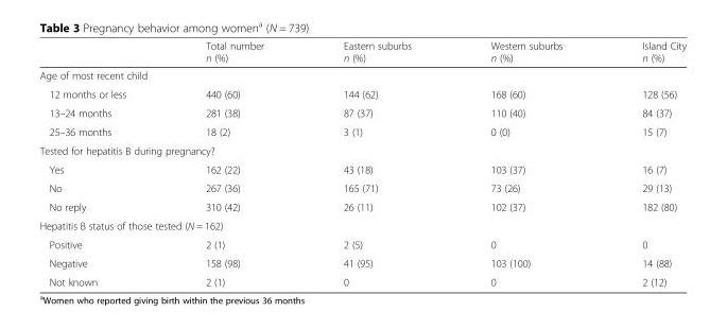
<table><thead><tr><td></td><td>Total number n (%)</td><td>Eastern suburbs n (%)</td><td>Western suburbs n (%)</td><td>Island City n (%)</td></tr></thead><tbody><tr><td colspan="5">Age of most recent child</td></tr><tr><td>12 months or less</td><td>440 (60)</td><td>144 (62)</td><td>168 (60)</td><td>128 (56)</td></tr><tr><td>13–24 months</td><td>281 (38)</td><td>87 (37)</td><td>110 (40)</td><td>84 (37)</td></tr><tr><td>25–36 months</td><td>18 (2)</td><td>3 (1)</td><td>0 (0)</td><td>15 (7)</td></tr><tr><td colspan="5">Tested for hepatitis B during pregnancy?</td></tr><tr><td>Yes</td><td>162 (22)</td><td>43 (18)</td><td>103 (37)</td><td>16 (7)</td></tr><tr><td>No</td><td>267 (36)</td><td>165 (71)</td><td>73 (26)</td><td>29 (13)</td></tr><tr><td>No reply</td><td>310 (42)</td><td>26 (11)</td><td>102 (37)</td><td>182 (80)</td></tr><tr><td colspan="5">Hepatitis B status of those tested (N = 162)</td></tr><tr><td>Positive</td><td>2 (1)</td><td>2 (5)</td><td>0</td><td>0</td></tr><tr><td>Negative</td><td>158 (98)</td><td>41 (95)</td><td>103 (100)</td><td>14 (88)</td></tr><tr><td>Not known</td><td>2 (1)</td><td>0</td><td>0</td><td>2 (12)</td></tr></tbody></table>